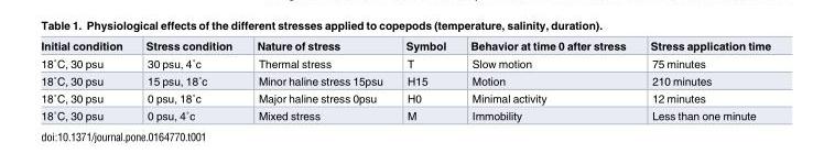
<table><thead><tr><td>Initial condition</td><td>Stress condition</td><td>Nature of stress</td><td>Symbol</td><td>Behavior at time 0 after stress</td><td>Stress application time</td></tr></thead><tbody><tr><td>18˚C, 30 psu</td><td>30 psu, 4˚c</td><td>Thermal stress</td><td>T</td><td>Slow motion</td><td>75 minutes</td></tr><tr><td>18˚C, 30 psu</td><td>15 psu, 18˚c</td><td>Minor haline stress 15psu</td><td>H15</td><td>Motion</td><td>210 minutes</td></tr><tr><td>18˚C, 30 psu</td><td>0 psu, 18˚c</td><td>Major haline stress 0psu</td><td>H0</td><td>Minimal activity</td><td>12 minutes</td></tr><tr><td>18˚C, 30 psu</td><td>0 psu, 4˚c</td><td>Mixed stress</td><td>M</td><td>Immobility</td><td>Less than one minute</td></tr></tbody></table>